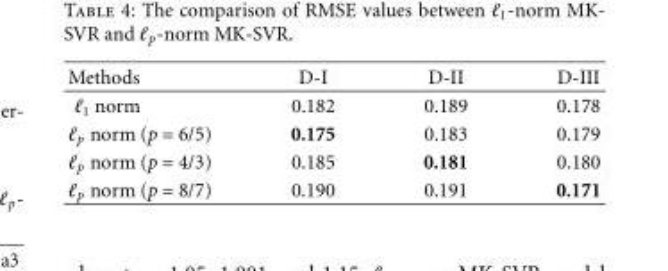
<table><thead><tr><td>Methods</td><td>D-I</td><td>D-II</td><td>D-III</td></tr></thead><tbody><tr><td>ℓ<sub>1</sub> norm</td><td>0.182</td><td>0.189</td><td>0.178</td></tr><tr><td>ℓ<sub>p</sub> norm (p = 6/5)</td><td>0.175</td><td>0.183</td><td>0.179</td></tr><tr><td>ℓ<sub>p</sub> norm (p = 4/3)</td><td>0.185</td><td>0.181</td><td>0.180</td></tr><tr><td>ℓ<sub>p</sub> norm (p = 8/7)</td><td>0.190</td><td>0.191</td><td>0.171</td></tr></tbody></table>